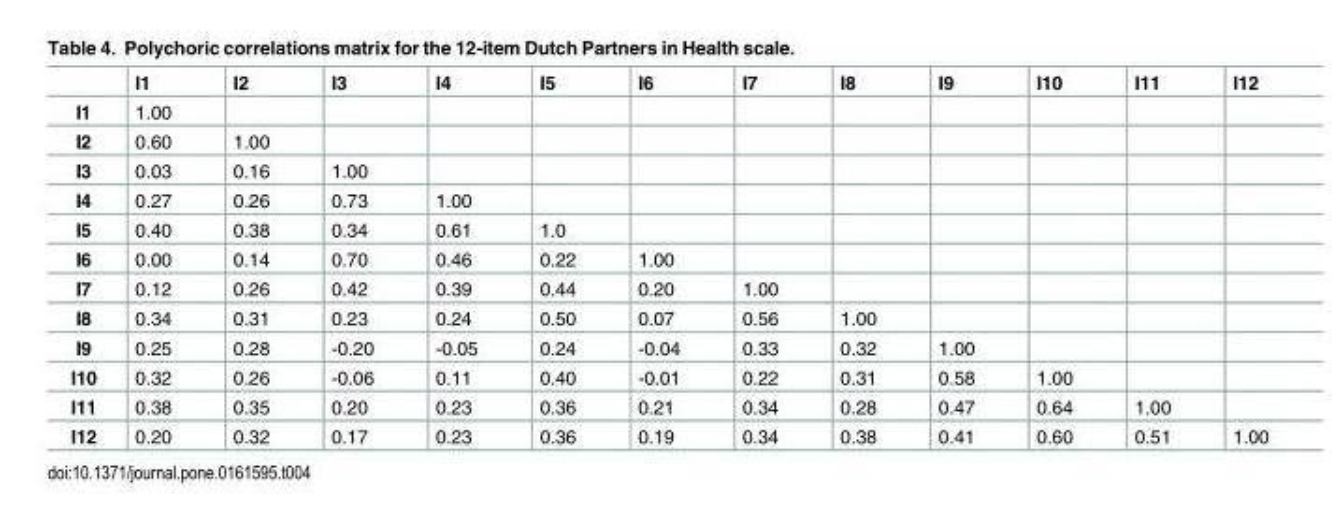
<table><thead><tr><td></td><td>I1</td><td>I2</td><td>I3</td><td>I4</td><td>I5</td><td>I6</td><td>I7</td><td>I8</td><td>I9</td><td>I10</td><td>I11</td><td>I12</td></tr></thead><tbody><tr><td>I1</td><td>1.00</td><td></td><td></td><td></td><td></td><td></td><td></td><td></td><td></td><td></td><td></td><td></td></tr><tr><td>I2</td><td>0.60</td><td>1.00</td><td></td><td></td><td></td><td></td><td></td><td></td><td></td><td></td><td></td><td></td></tr><tr><td>I3</td><td>0.03</td><td>0.16</td><td>1.00</td><td></td><td></td><td></td><td></td><td></td><td></td><td></td><td></td><td></td></tr><tr><td>I4</td><td>0.27</td><td>0.26</td><td>0.73</td><td>1.00</td><td></td><td></td><td></td><td></td><td></td><td></td><td></td><td></td></tr><tr><td>I5</td><td>0.40</td><td>0.38</td><td>0.34</td><td>0.61</td><td>1.0</td><td></td><td></td><td></td><td></td><td></td><td></td><td></td></tr><tr><td>I6</td><td>0.00</td><td>0.14</td><td>0.70</td><td>0.46</td><td>0.22</td><td>1.00</td><td></td><td></td><td></td><td></td><td></td><td></td></tr><tr><td>I7</td><td>0.12</td><td>0.26</td><td>0.42</td><td>0.39</td><td>0.44</td><td>0.20</td><td>1.00</td><td></td><td></td><td></td><td></td><td></td></tr><tr><td>I8</td><td>0.34</td><td>0.31</td><td>0.23</td><td>0.24</td><td>0.50</td><td>0.07</td><td>0.56</td><td>1.00</td><td></td><td></td><td></td><td></td></tr><tr><td>I9</td><td>0.25</td><td>0.28</td><td>-0.20</td><td>-0.05</td><td>0.24</td><td>-0.04</td><td>0.33</td><td>0.32</td><td>1.00</td><td></td><td></td><td></td></tr><tr><td>I10</td><td>0.32</td><td>0.26</td><td>-0.06</td><td>0.11</td><td>0.40</td><td>-0.01</td><td>0.22</td><td>0.31</td><td>0.58</td><td>1.00</td><td></td><td></td></tr><tr><td>I11</td><td>0.38</td><td>0.35</td><td>0.20</td><td>0.23</td><td>0.36</td><td>0.21</td><td>0.34</td><td>0.28</td><td>0.47</td><td>0.64</td><td>1.00</td><td></td></tr><tr><td>I12</td><td>0.20</td><td>0.32</td><td>0.17</td><td>0.23</td><td>0.36</td><td>0.19</td><td>0.34</td><td>0.38</td><td>0.41</td><td>0.60</td><td>0.51</td><td>1.00</td></tr></tbody></table>